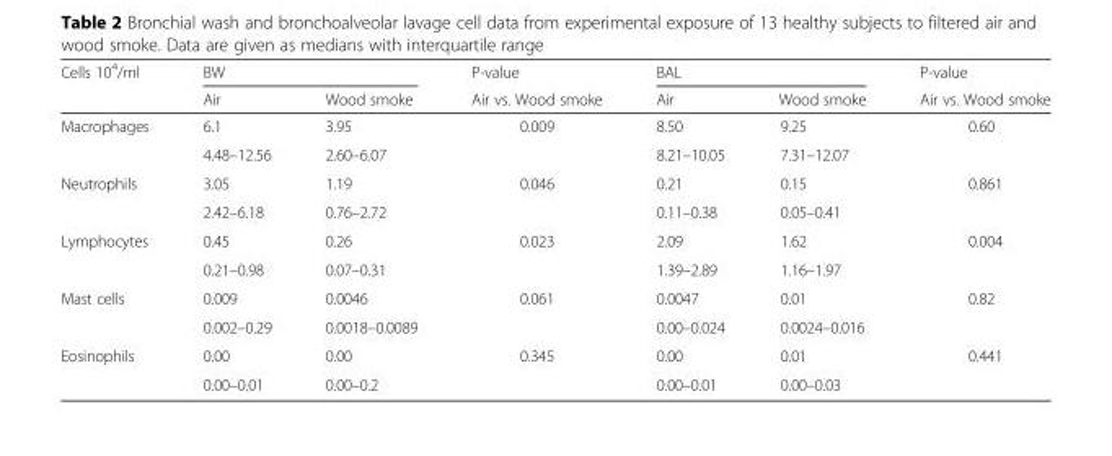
<table><thead><tr><td rowspan="2">Cells 10<sup>4</sup>/ml</td><td colspan="2">BW</td><td rowspan="2">P-value Air vs. Wood smoke</td><td colspan="2">BAL</td><td rowspan="2">P-value Air vs. Wood smoke</td></tr><tr><td>Air</td><td>Wood smoke</td><td>Air</td><td>Wood smoke</td></tr></thead><tbody><tr><td rowspan="2">Macrophages</td><td>6.1</td><td>3.95</td><td rowspan="2">0.009</td><td>8.50</td><td>9.25</td><td rowspan="2">0.60</td></tr><tr><td>4.48–12.56</td><td>2.60–6.07</td><td>8.21–10.05</td><td>7.31–12.07</td></tr><tr><td rowspan="2">Neutrophils</td><td>3.05</td><td>1.19</td><td rowspan="2">0.046</td><td>0.21</td><td>0.15</td><td rowspan="2">0.861</td></tr><tr><td>2.42–6.18</td><td>0.76–2.72</td><td>0.11–0.38</td><td>0.05–0.41</td></tr><tr><td rowspan="2">Lymphocytes</td><td>0.45</td><td>0.26</td><td rowspan="2">0.023</td><td>2.09</td><td>1.62</td><td rowspan="2">0.004</td></tr><tr><td>0.21–0.98</td><td>0.07–0.31</td><td>1.39–2.89</td><td>1.16–1.97</td></tr><tr><td rowspan="2">Mast cells</td><td>0.009</td><td>0.0046</td><td rowspan="2">0.061</td><td>0.0047</td><td>0.01</td><td rowspan="2">0.82</td></tr><tr><td>0.002–0.29</td><td>0.0018–0.0089</td><td>0.00–0.024</td><td>0.0024–0.016</td></tr><tr><td rowspan="2">Eosinophils</td><td>0.00</td><td>0.00</td><td rowspan="2">0.345</td><td>0.00</td><td>0.01</td><td rowspan="2">0.441</td></tr><tr><td>0.00–0.01</td><td>0.00–0.2</td><td>0.00–0.01</td><td>0.00–0.03</td></tr></tbody></table>